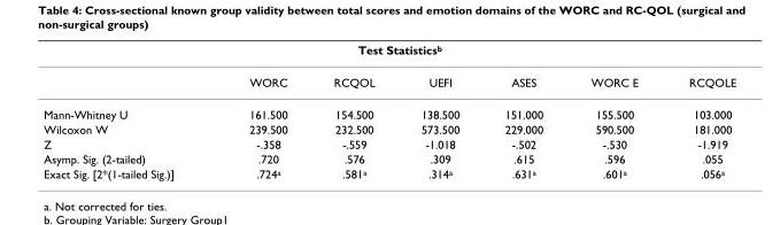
<table><thead><tr><td colspan="7">Test Statisticsb</td></tr><tr><td></td><td>WORC</td><td>RCQOL</td><td>UEFI</td><td>ASES</td><td>WORC E</td><td>RCQOLE</td></tr></thead><tbody><tr><td>Mann-Whitney U</td><td>161.500</td><td>154.500</td><td>138.500</td><td>151.000</td><td>155.500</td><td>103.000</td></tr><tr><td>Wilcoxon W</td><td>239.500</td><td>232.500</td><td>573.500</td><td>229.000</td><td>590.500</td><td>181.000</td></tr><tr><td>Z</td><td>-.358</td><td>-.559</td><td>-1.018</td><td>-.502</td><td>-.530</td><td>-1.919</td></tr><tr><td>Asymp. Sig. (2-tailed)</td><td>.720</td><td>.576</td><td>.309</td><td>.615</td><td>.596</td><td>.055</td></tr><tr><td>Exact Sig. [2*(1-tailed Sig.)]</td><td>.724a</td><td>.581a</td><td>.314a</td><td>.631a</td><td>.601a</td><td>.056a</td></tr></tbody></table>